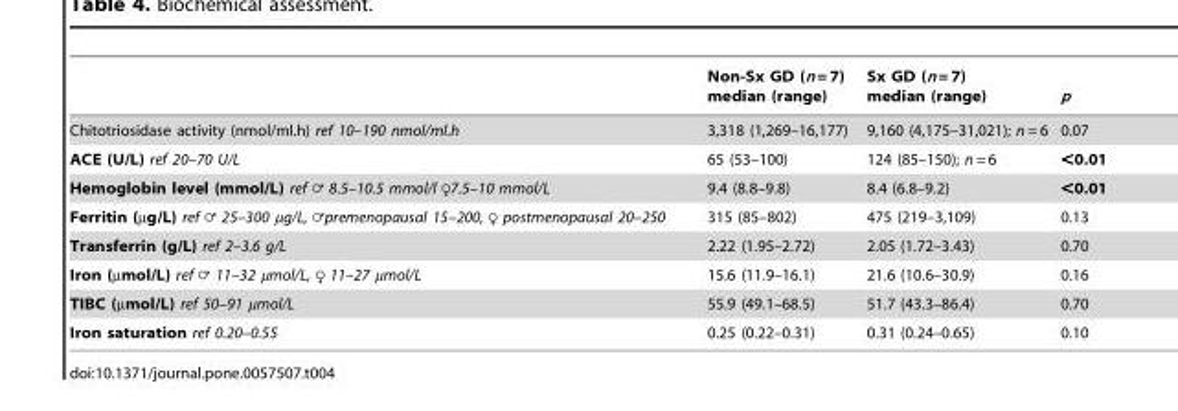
<table><thead><tr><td></td><td>Non-Sx GD (n = 7) median (range)</td><td>Sx GD (n = 7) median (range)</td><td>p</td></tr></thead><tbody><tr><td>Chitotriosidase activity (nmol/ml.h) ref 10–190 nmol/ml.h</td><td>3,318 (1,269–16,177)</td><td>9,160 (4,175–31,021); n = 6</td><td>0.07</td></tr><tr><td>ACE (U/L) ref 20–70 U/L</td><td>65 (53–100)</td><td>124 (85–150); n = 6</td><td>&lt;0.01</td></tr><tr><td>Hemoglobin level (mmol/L) ref = 8.5–10.5 mmol/l R7.5–10 mmol/L</td><td>9.4 (8.8–9.8)</td><td>8.4 (6.8–9.2)</td><td>&lt;0.01</td></tr><tr><td>Ferritin (mg/L) ref = 25–300 mg/L, =premenopausal 15–200, R postmenopausal 20–250</td><td>315 (85–802)</td><td>475 (219–3,109)</td><td>0.13</td></tr><tr><td>Transferrin (g/L) ref 2–3.6 g/L</td><td>2.22 (1.95–2.72)</td><td>2.05 (1.72–3.43)</td><td>0.70</td></tr><tr><td>Iron (mmol/L) ref = 11–32 mmol/L, R 11–27 mmol/L</td><td>15.6 (11.9–16.1)</td><td>21.6 (10.6–30.9)</td><td>0.16</td></tr><tr><td>TIBC (µmol/L) ref 50–91 µmol/L</td><td>55.9 (49.1–68.5)</td><td>51.7 (43.3–86.4)</td><td>0.70</td></tr><tr><td>Iron saturation ref 0.20–0.55</td><td>0.25 (0.22–0.31)</td><td>0.31 (0.24–0.65)</td><td>0.10</td></tr></tbody></table>